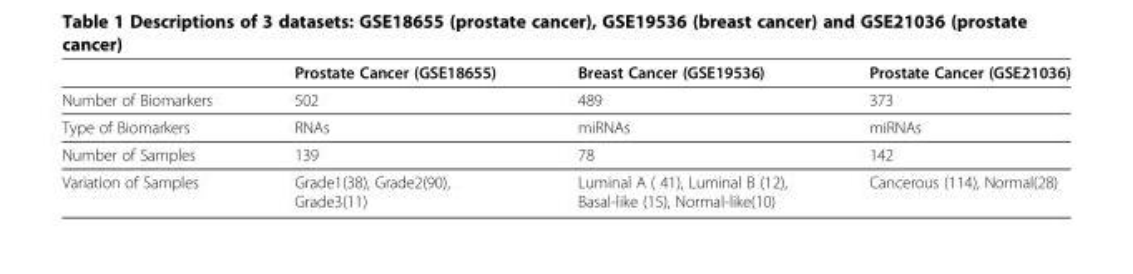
<table><thead><tr><td></td><td>Prostate Cancer (GSE18655)</td><td>Breast Cancer (GSE19536)</td><td>Prostate Cancer (GSE21036)</td></tr></thead><tbody><tr><td>Number of Biomarkers</td><td>502</td><td>489</td><td>373</td></tr><tr><td>Type of Biomarkers</td><td>RNAs</td><td>miRNAs</td><td>miRNAs</td></tr><tr><td>Number of Samples</td><td>139</td><td>78</td><td>142</td></tr><tr><td>Variation of Samples</td><td>Grade1(38), Grade2(90), Grade3(11)</td><td>Luminal A ( 41), Luminal B (12), Basal-like (15), Normal-like(10)</td><td>Cancerous (114), Normal(28)</td></tr></tbody></table>